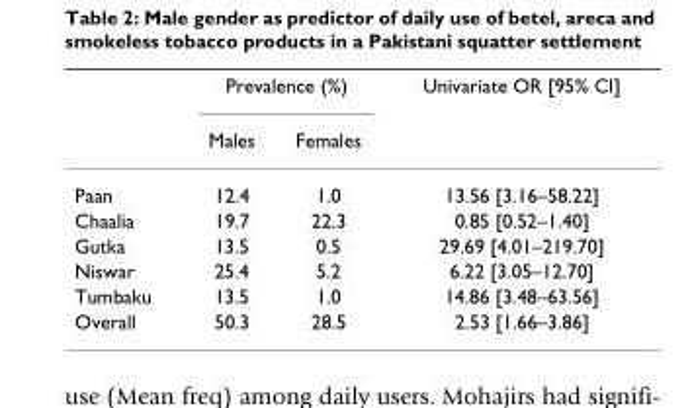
<table><thead><tr><td rowspan="2"></td><td colspan="2">Prevalence (%)</td><td rowspan="2">Univariate OR [95% CI]</td></tr><tr><td>Males</td><td>Females</td></tr></thead><tbody><tr><td>Paan</td><td>12.4</td><td>1.0</td><td>13.56 [3.16–58.22]</td></tr><tr><td>Chaalia</td><td>19.7</td><td>22.3</td><td>0.85 [0.52–1.40]</td></tr><tr><td>Gutka</td><td>13.5</td><td>0.5</td><td>29.69 [4.01–219.70]</td></tr><tr><td>Niswar</td><td>25.4</td><td>5.2</td><td>6.22 [3.05–12.70]</td></tr><tr><td>Tumbaku</td><td>13.5</td><td>1.0</td><td>14.86 [3.48–63.56]</td></tr><tr><td>Overall</td><td>50.3</td><td>28.5</td><td>2.53 [1.66–3.86]</td></tr></tbody></table>